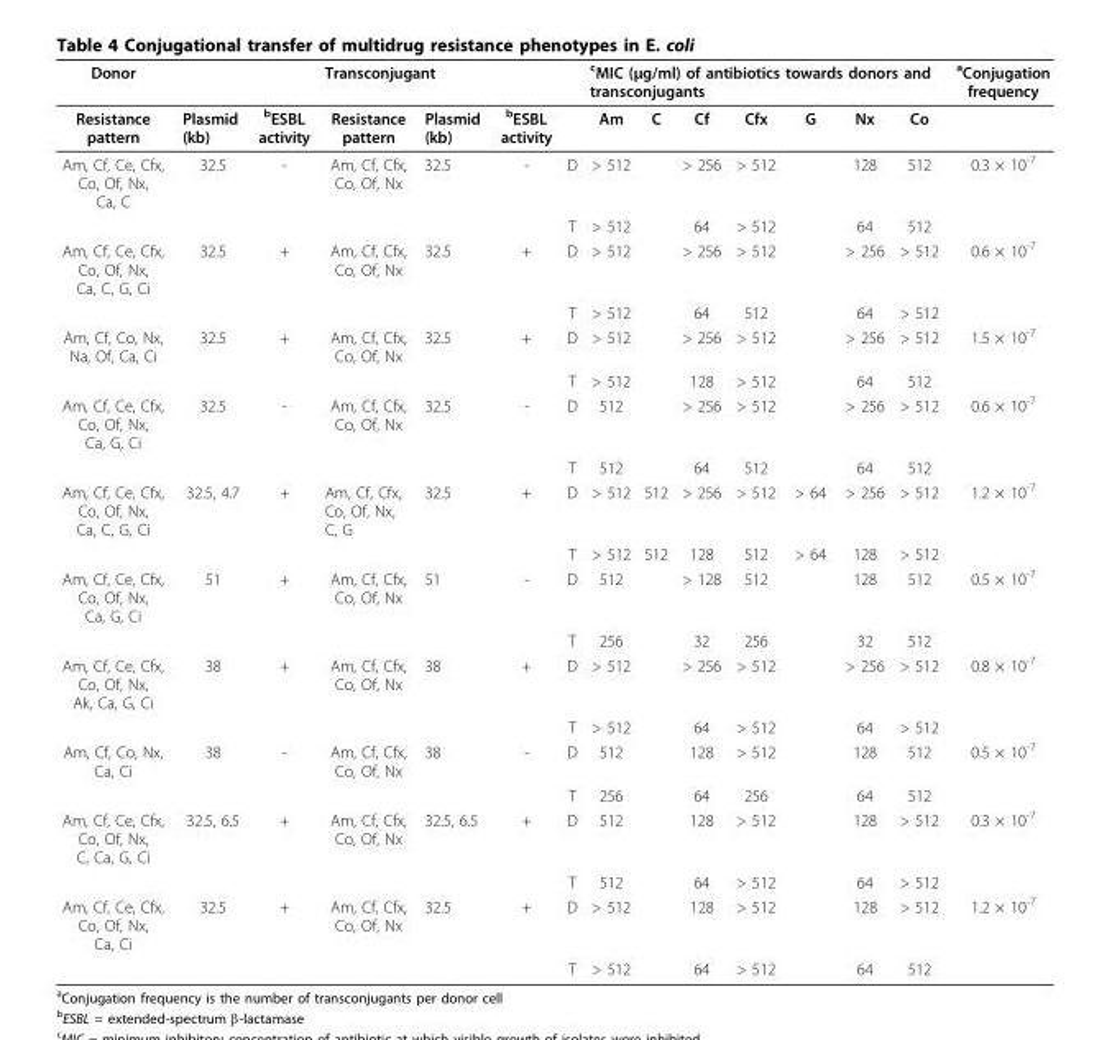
<table><thead><tr><td rowspan="2">Donor Resistance pattern</td><td colspan="6">Transconjugant</td><td colspan="7"><sup>c</sup>MIC (μg/ml) of antibiotics towards donors and transconjugants</td><td rowspan="2"><sup>a</sup>Conjugation frequency</td></tr><tr><td>Plasmid (kb)</td><td><sup>b</sup>ESBL activity</td><td>Resistance pattern</td><td>Plasmid (kb)</td><td><sup>b</sup>ESBL activity</td><td></td><td>Am</td><td>C</td><td>Cf</td><td>Cfx</td><td>G</td><td>Nx</td><td>Co</td></tr></thead><tbody><tr><td rowspan="2">Am, Cf, Ce, Cfx, Co, Of, Nx, Ca, C</td><td>32.5</td><td>-</td><td>Am, Cf, Cfx, Co, Of, Nx</td><td>32.5</td><td>-</td><td>D</td><td>&gt; 512</td><td></td><td>&gt; 256</td><td>&gt; 512</td><td></td><td>128</td><td>512</td><td>0.3 × 10<sup>-7</sup></td></tr><tr><td></td><td></td><td></td><td></td><td></td><td>T</td><td>&gt; 512</td><td></td><td>64</td><td>&gt; 512</td><td></td><td>64</td><td>512</td><td></td></tr><tr><td rowspan="2">Am, Cf, Ce, Cfx, Co, Of, Nx, Ca, C, G, Ci</td><td>32.5</td><td>+</td><td>Am, Cf, Cfx, Co, Of, Nx</td><td>32.5</td><td>+</td><td>D</td><td>&gt; 512</td><td></td><td>&gt; 256</td><td>&gt; 512</td><td></td><td>&gt; 256</td><td>&gt; 512</td><td>0.6 × 10<sup>-7</sup></td></tr><tr><td></td><td></td><td></td><td></td><td></td><td>T</td><td>&gt; 512</td><td></td><td>64</td><td>512</td><td></td><td>64</td><td>&gt; 512</td><td></td></tr><tr><td rowspan="2">Am, Cf, Co, Nx, Na, Of, Ca, Ci</td><td>32.5</td><td>+</td><td>Am, Cf, Cfx, Co, Of, Nx</td><td>32.5</td><td>+</td><td>D</td><td>&gt; 512</td><td></td><td>&gt; 256</td><td>&gt; 512</td><td></td><td>&gt; 256</td><td>&gt; 512</td><td>1.5 × 10<sup>-7</sup></td></tr><tr><td></td><td></td><td></td><td></td><td></td><td>T</td><td>&gt; 512</td><td></td><td>128</td><td>&gt; 512</td><td></td><td>64</td><td>512</td><td></td></tr><tr><td rowspan="2">Am, Cf, Ce, Cfx, Co, Of, Nx, Ca, G, Ci</td><td>32.5</td><td>-</td><td>Am, Cf, Cfx, Co, Of, Nx</td><td>32.5</td><td>-</td><td>D</td><td>512</td><td></td><td>&gt; 256</td><td>&gt; 512</td><td></td><td>&gt; 256</td><td>&gt; 512</td><td>0.6 × 10<sup>-7</sup></td></tr><tr><td></td><td></td><td></td><td></td><td></td><td>T</td><td>512</td><td></td><td>64</td><td>512</td><td></td><td>64</td><td>512</td><td></td></tr><tr><td rowspan="2">Am, Cf, Ce, Cfx, Co, Of, Nx, Ca, C, G, Ci</td><td>32.5, 4.7</td><td>+</td><td>Am, Cf, Cfx, Co, Of, Nx, C, G</td><td>32.5</td><td>+</td><td>D</td><td>&gt; 512</td><td>512</td><td>&gt; 256</td><td>&gt; 512</td><td>&gt; 64</td><td>&gt; 256</td><td>&gt; 512</td><td>1.2 × 10<sup>-7</sup></td></tr><tr><td></td><td></td><td></td><td></td><td></td><td>T</td><td>&gt; 512</td><td>512</td><td>128</td><td>512</td><td>&gt; 64</td><td>128</td><td>&gt; 512</td><td></td></tr><tr><td rowspan="2">Am, Cf, Ce, Cfx, Co, Of, Nx, Ca, G, Ci</td><td>51</td><td>+</td><td>Am, Cf, Cfx, Co, Of, Nx</td><td>51</td><td>-</td><td>D</td><td>512</td><td></td><td>&gt; 128</td><td>512</td><td></td><td>128</td><td>512</td><td>0.5 × 10<sup>-7</sup></td></tr><tr><td></td><td></td><td></td><td></td><td></td><td>T</td><td>256</td><td></td><td>32</td><td>256</td><td></td><td>32</td><td>512</td><td></td></tr><tr><td rowspan="2">Am, Cf, Ce, Cfx, Co, Of, Nx, Ak, Ca, G, Ci</td><td>38</td><td>+</td><td>Am, Cf, Cfx, Co, Of, Nx</td><td>38</td><td>+</td><td>D</td><td>&gt; 512</td><td></td><td>&gt; 256</td><td>&gt; 512</td><td></td><td>&gt; 256</td><td>&gt; 512</td><td>0.8 × 10<sup>-7</sup></td></tr><tr><td></td><td></td><td></td><td></td><td></td><td>T</td><td>&gt; 512</td><td></td><td>64</td><td>&gt; 512</td><td></td><td>64</td><td>&gt; 512</td><td></td></tr><tr><td rowspan="2">Am, Cf, Co, Nx, Ca, Ci</td><td>38</td><td>-</td><td>Am, Cf, Cfx, Co, Of, Nx</td><td>38</td><td>-</td><td>D</td><td>512</td><td></td><td>128</td><td>&gt; 512</td><td></td><td>128</td><td>512</td><td>0.5 × 10<sup>-7</sup></td></tr><tr><td></td><td></td><td></td><td></td><td></td><td>T</td><td>256</td><td></td><td>64</td><td>256</td><td></td><td>64</td><td>512</td><td></td></tr><tr><td rowspan="2">Am, Cf, Ce, Cfx, Co, Of, Nx, C, Ca, G, Ci</td><td>32.5, 6.5</td><td>+</td><td>Am, Cf, Cfx, Co, Of, Nx</td><td>32.5, 6.5</td><td>+</td><td>D</td><td>512</td><td></td><td>128</td><td>&gt; 512</td><td></td><td>128</td><td>&gt; 512</td><td>0.3 × 10<sup>-7</sup></td></tr><tr><td></td><td></td><td></td><td></td><td></td><td>T</td><td>512</td><td></td><td>64</td><td>&gt; 512</td><td></td><td>64</td><td>&gt; 512</td><td></td></tr><tr><td rowspan="2">Am, Cf, Ce, Cfx, Co, Of, Nx, Ca, Ci</td><td>32.5</td><td>+</td><td>Am, Cf, Cfx, Co, Of, Nx</td><td>32.5</td><td>+</td><td>D</td><td>&gt; 512</td><td></td><td>128</td><td>&gt; 512</td><td></td><td>128</td><td>&gt; 512</td><td>1.2 × 10<sup>-7</sup></td></tr><tr><td></td><td></td><td></td><td></td><td></td><td>T</td><td>&gt; 512</td><td></td><td>64</td><td>&gt; 512</td><td></td><td>64</td><td>512</td><td></td></tr></tbody></table>